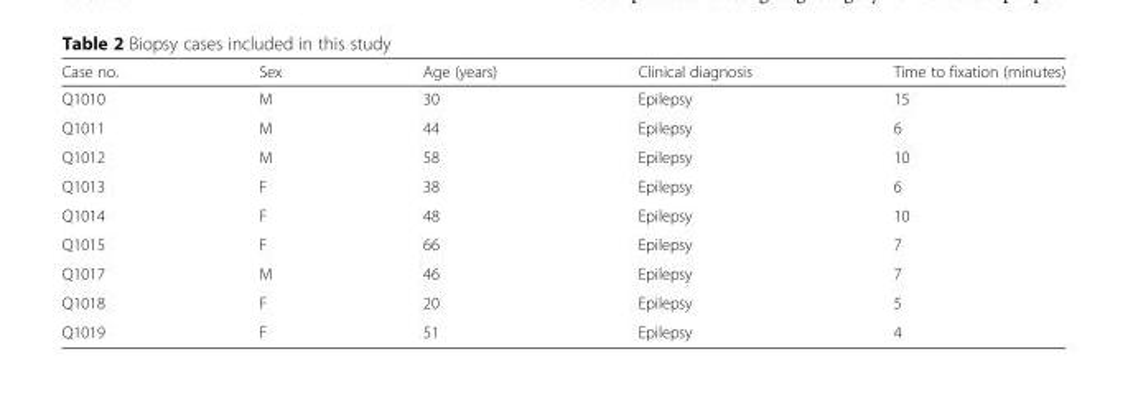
<table><thead><tr><td>Case no.</td><td>Sex</td><td>Age (years)</td><td>Clinical diagnosis</td><td>Time to fixation (minutes)</td></tr></thead><tbody><tr><td>Q1010</td><td>M</td><td>30</td><td>Epilepsy</td><td>15</td></tr><tr><td>Q1011</td><td>M</td><td>44</td><td>Epilepsy</td><td>6</td></tr><tr><td>Q1012</td><td>M</td><td>58</td><td>Epilepsy</td><td>10</td></tr><tr><td>Q1013</td><td>F</td><td>38</td><td>Epilepsy</td><td>6</td></tr><tr><td>Q1014</td><td>F</td><td>48</td><td>Epilepsy</td><td>10</td></tr><tr><td>Q1015</td><td>F</td><td>66</td><td>Epilepsy</td><td>7</td></tr><tr><td>Q1017</td><td>M</td><td>46</td><td>Epilepsy</td><td>7</td></tr><tr><td>Q1018</td><td>F</td><td>20</td><td>Epilepsy</td><td>5</td></tr><tr><td>Q1019</td><td>F</td><td>51</td><td>Epilepsy</td><td>4</td></tr></tbody></table>